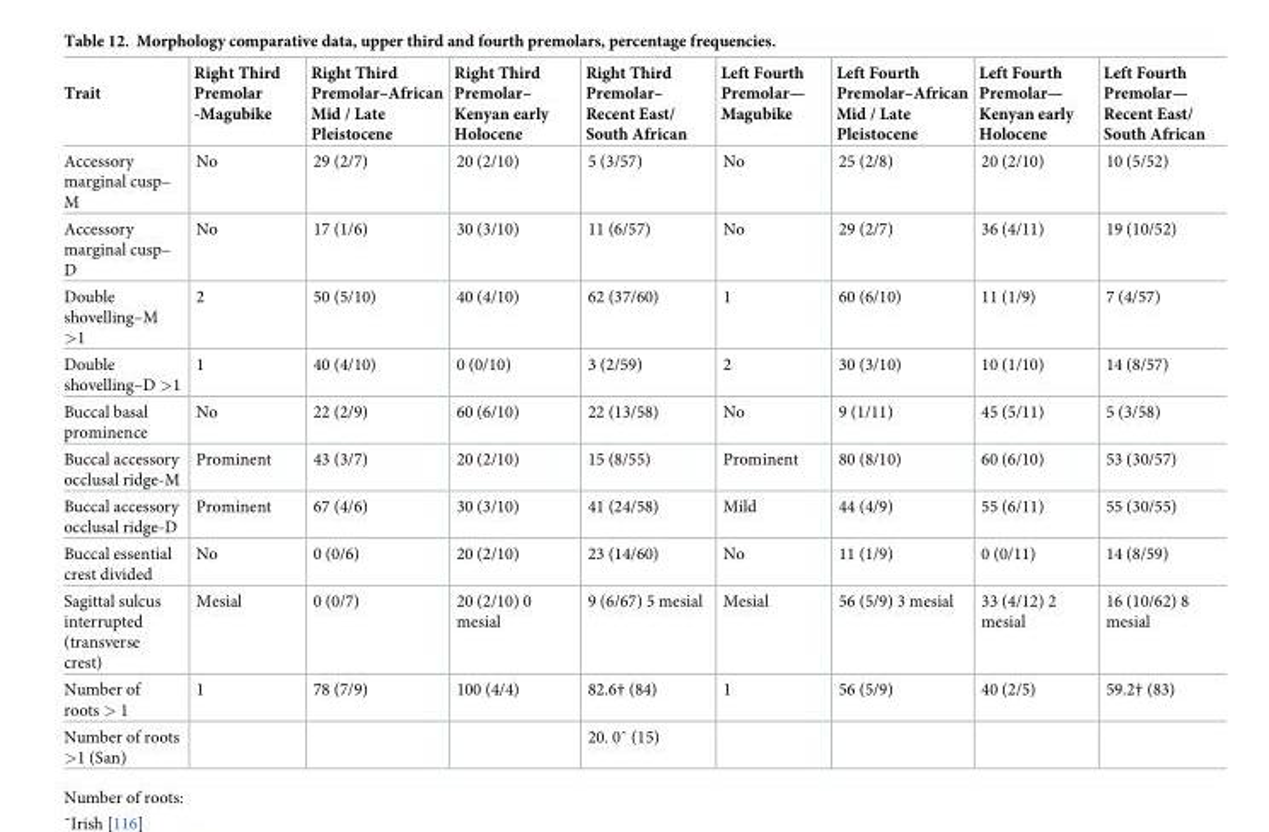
<table><thead><tr><td>Trait</td><td>Right Third Premolar -Magubike</td><td>Right Third Premolar–African Mid / Late Pleistocene</td><td>Right Third Premolar– Kenyan early Holocene</td><td>Right Third Premolar– Recent East/ South African</td><td>Left Fourth Premolar— Magubike</td><td>Left Fourth Premolar–African Mid / Late Pleistocene</td><td>Left Fourth Premolar— Kenyan early Holocene</td><td>Left Fourth Premolar— Recent East/ South African</td></tr></thead><tbody><tr><td>Accessory marginal cusp– M</td><td>No</td><td>29 (2/7)</td><td>20 (2/10)</td><td>5 (3/57)</td><td>No</td><td>25 (2/8)</td><td>20 (2/10)</td><td>10 (5/52)</td></tr><tr><td>Accessory marginal cusp– D</td><td>No</td><td>17 (1/6)</td><td>30 (3/10)</td><td>11 (6/57)</td><td>No</td><td>29 (2/7)</td><td>36 (4/11)</td><td>19 (10/52)</td></tr><tr><td>Double shovelling–M &gt;1</td><td>2</td><td>50 (5/10)</td><td>40 (4/10)</td><td>62 (37/60)</td><td>1</td><td>60 (6/10)</td><td>11 (1/9)</td><td>7 (4/57)</td></tr><tr><td>Double shovelling–D &gt;1</td><td>1</td><td>40 (4/10)</td><td>0 (0/10)</td><td>3 (2/59)</td><td>2</td><td>30 (3/10)</td><td>10 (1/10)</td><td>14 (8/57)</td></tr><tr><td>Buccal basal prominence</td><td>No</td><td>22 (2/9)</td><td>60 (6/10)</td><td>22 (13/58)</td><td>No</td><td>9 (1/11)</td><td>45 (5/11)</td><td>5 (3/58)</td></tr><tr><td>Buccal accessory occlusal ridge-M</td><td>Prominent</td><td>43 (3/7)</td><td>20 (2/10)</td><td>15 (8/55)</td><td>Prominent</td><td>80 (8/10)</td><td>60 (6/10)</td><td>53 (30/57)</td></tr><tr><td>Buccal accessory occlusal ridge-D</td><td>Prominent</td><td>67 (4/6)</td><td>30 (3/10)</td><td>41 (24/58)</td><td>Mild</td><td>44 (4/9)</td><td>55 (6/11)</td><td>55 (30/55)</td></tr><tr><td>Buccal essential crest divided</td><td>No</td><td>0 (0/6)</td><td>20 (2/10)</td><td>23 (14/60)</td><td>No</td><td>11 (1/9)</td><td>0 (0/11)</td><td>14 (8/59)</td></tr><tr><td>Sagittal sulcus interrupted (transverse crest)</td><td>Mesial</td><td>0 (0/7)</td><td>20 (2/10) 0 mesial</td><td>9 (6/67) 5 mesial</td><td>Mesial</td><td>56 (5/9) 3 mesial</td><td>33 (4/12) 2 mesial</td><td>16 (10/62) 8 mesial</td></tr><tr><td>Number of roots &gt; 1</td><td>1</td><td>78 (7/9)</td><td>100 (4/4)</td><td>82.6† (84)</td><td>1</td><td>56 (5/9)</td><td>40 (2/5)</td><td>59.2† (83)</td></tr><tr><td>Number of roots &gt;1 (San)</td><td></td><td></td><td></td><td>20. 0˜ (15)</td><td></td><td></td><td></td><td></td></tr></tbody></table>